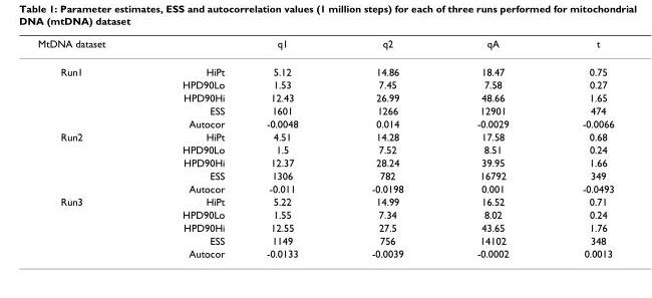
<table><thead><tr><td>MtDNA dataset</td><td></td><td>q1</td><td>q2</td><td>qA</td><td>t</td></tr></thead><tbody><tr><td rowspan="5">Run1</td><td>HiPt</td><td>5.12</td><td>14.86</td><td>18.47</td><td>0.75</td></tr><tr><td>HPD90Lo</td><td>1.53</td><td>7.45</td><td>7.58</td><td>0.27</td></tr><tr><td>HPD90Hi</td><td>12.43</td><td>26.99</td><td>48.66</td><td>1.65</td></tr><tr><td>ESS</td><td>1601</td><td>1266</td><td>12901</td><td>474</td></tr><tr><td>Autocor</td><td>-0.0048</td><td>0.014</td><td>-0.0029</td><td>-0.0066</td></tr><tr><td rowspan="5">Run2</td><td>HiPt</td><td>4.51</td><td>14.28</td><td>17.58</td><td>0.68</td></tr><tr><td>HPD90Lo</td><td>1.5</td><td>7.52</td><td>8.51</td><td>0.24</td></tr><tr><td>HPD90Hi</td><td>12.37</td><td>28.24</td><td>39.95</td><td>1.66</td></tr><tr><td>ESS</td><td>1306</td><td>782</td><td>16792</td><td>349</td></tr><tr><td>Autocor</td><td>-0.011</td><td>-0.0198</td><td>0.001</td><td>-0.0493</td></tr><tr><td rowspan="5">Run3</td><td>HiPt</td><td>5.22</td><td>14.99</td><td>16.52</td><td>0.71</td></tr><tr><td>HPD90Lo</td><td>1.55</td><td>7.34</td><td>8.02</td><td>0.24</td></tr><tr><td>HPD90Hi</td><td>12.55</td><td>27.5</td><td>43.65</td><td>1.76</td></tr><tr><td>ESS</td><td>1149</td><td>756</td><td>14102</td><td>348</td></tr><tr><td>Autocor</td><td>-0.0133</td><td>-0.0039</td><td>-0.0002</td><td>0.0013</td></tr></tbody></table>